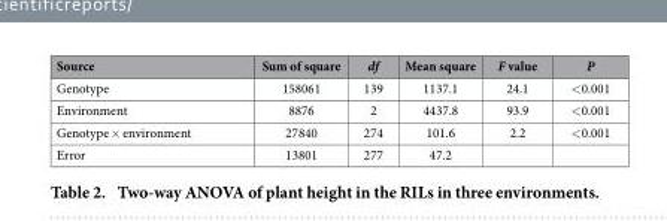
<table><thead><tr><td>Source</td><td>Sum of square</td><td>df</td><td>Mean square</td><td>F value</td><td>P</td></tr></thead><tbody><tr><td>Genotype</td><td>158061</td><td>139</td><td>1137.1</td><td>24.1</td><td>&lt; 0.001</td></tr><tr><td>Environment</td><td>8876</td><td>2</td><td>4437.8</td><td>93.9</td><td>&lt; 0.001</td></tr><tr><td>Genotype × environment</td><td>27840</td><td>274</td><td>101.6</td><td>2.2</td><td>&lt; 0.001</td></tr><tr><td>Error</td><td>13801</td><td>277</td><td>47.2</td><td></td><td></td></tr></tbody></table>